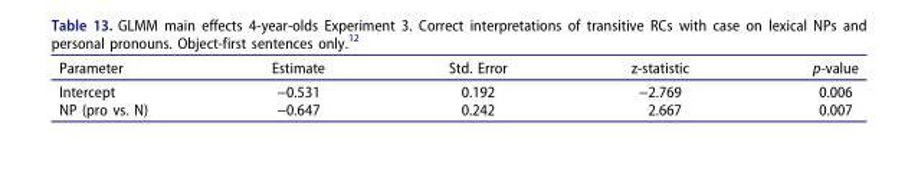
<table><thead><tr><td>Parameter</td><td>Estimate</td><td>Std. Error</td><td>z-statistic</td><td>p-value</td></tr></thead><tbody><tr><td>Intercept</td><td>−0.531</td><td>0.192</td><td>−2.769</td><td>0.006</td></tr><tr><td>NP (pro vs. N)</td><td>−0.647</td><td>0.242</td><td>2.667</td><td>0.007</td></tr></tbody></table>